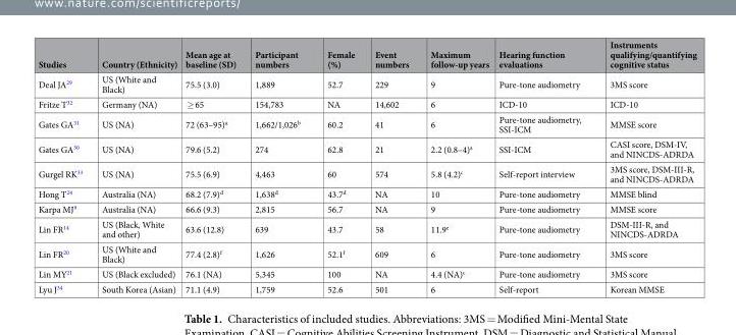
<table><thead><tr><td>Studies</td><td>Country (Ethnicity)</td><td>Mean age at baseline (SD)</td><td>Participant numbers</td><td>Female (%)</td><td>Event numbers</td><td>Maximum follow-up years</td><td>Hearing function evaluations</td><td>Instruments qualifying/quantifying cognitive status</td></tr></thead><tbody><tr><td>Deal JA<sup>29</sup></td><td>US (White and Black)</td><td>75.5 (3.0)</td><td>1,889</td><td>52.7</td><td>229</td><td>9</td><td>Pure-tone audiometry</td><td>3MS score</td></tr><tr><td>Fritze T<sup>32</sup></td><td>Germany (NA)</td><td>≥ 65</td><td>154,783</td><td>NA</td><td>14,602</td><td>6</td><td>ICD-10</td><td>ICD-10</td></tr><tr><td>Gates GA<sup>31</sup></td><td>US (NA)</td><td>72 (63–95)<sup>a</sup></td><td>1,662/1,026<sup>b</sup></td><td>60.2</td><td>41</td><td>6</td><td>Pure-tone audiometry, SSI-ICM</td><td>MMSE score</td></tr><tr><td>Gates GA<sup>30</sup></td><td>US (NA)</td><td>79.6 (5.2)</td><td>274</td><td>62.8</td><td>21</td><td>2.2 (0.8–4)<sup>a</sup></td><td>SSI-ICM</td><td>CASI score, DSM-IV, and NINCDS-ADRDA</td></tr><tr><td>Gurgel RK<sup>33</sup></td><td>US (NA)</td><td>75.5 (6.9)</td><td>4,463</td><td>60</td><td>574</td><td>5.8 (4.2)<sup>c</sup></td><td>Self-report interview</td><td>3MS score, DSM-III-R, and NINCDS-ADRDA</td></tr><tr><td>Hong T<sup>24</sup></td><td>Australia (NA)</td><td>68.2 (7.9)<sup>d</sup></td><td>1,638<sup>d</sup></td><td>43.7<sup>d</sup></td><td>NA</td><td>10</td><td>Pure-tone audiometry</td><td>MMSE blind</td></tr><tr><td>Karpa MJ<sup>9</sup></td><td>Australia (NA)</td><td>66.6 (9.3)</td><td>2,815</td><td>56.7</td><td>NA</td><td>9</td><td>Pure-tone audiometry</td><td>MMSE score</td></tr><tr><td>Lin FR<sup>14</sup></td><td>US (Black, White and other)</td><td>63.6 (12.8)</td><td>639</td><td>43.7</td><td>58</td><td>11.9<sup>e</sup></td><td>Pure-tone audiometry</td><td>DSM-III-R, and NINCDS-ADRDA</td></tr><tr><td>Lin FR<sup>20</sup></td><td>US (White and Black)</td><td>77.4 (2.8)<sup>f</sup></td><td>1,626</td><td>52.1<sup>f</sup></td><td>609</td><td>6</td><td>Pure-tone audiometry</td><td>3MS score</td></tr><tr><td>Lin MY<sup>21</sup></td><td>US (Black excluded)</td><td>76.1 (NA)</td><td>5,345</td><td>100</td><td>NA</td><td>4.4 (NA)<sup>c</sup></td><td>Pure-tone audiometry</td><td>3MS score</td></tr><tr><td>Lyu J<sup>34</sup></td><td>South Korea (Asian)</td><td>71.1 (4.9)</td><td>1,759</td><td>52.6</td><td>501</td><td>6</td><td>Self-report</td><td>Korean MMSE</td></tr></tbody></table>